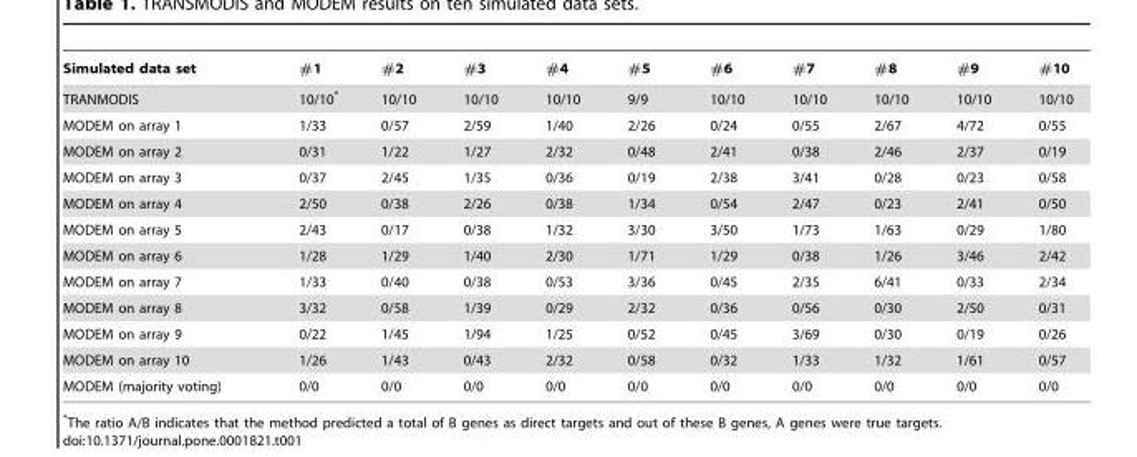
<table><thead><tr><td>Simulated data set</td><td>#1</td><td>#2</td><td>#3</td><td>#4</td><td>#5</td><td>#6</td><td>#7</td><td>#8</td><td>#9</td><td>#10</td></tr></thead><tbody><tr><td>TRANMODIS</td><td>10/10*</td><td>10/10</td><td>10/10</td><td>10/10</td><td>9/9</td><td>10/10</td><td>10/10</td><td>10/10</td><td>10/10</td><td>10/10</td></tr><tr><td>MODEM on array 1</td><td>1/33</td><td>0/57</td><td>2/59</td><td>1/40</td><td>2/26</td><td>0/24</td><td>0/55</td><td>2/67</td><td>4/72</td><td>0/55</td></tr><tr><td>MODEM on array 2</td><td>0/31</td><td>1/22</td><td>1/27</td><td>2/32</td><td>0/48</td><td>2/41</td><td>0/38</td><td>2/46</td><td>2/37</td><td>0/19</td></tr><tr><td>MODEM on array 3</td><td>0/37</td><td>2/45</td><td>1/35</td><td>0/36</td><td>0/19</td><td>2/38</td><td>3/41</td><td>0/28</td><td>0/23</td><td>0/58</td></tr><tr><td>MODEM on array 4</td><td>2/50</td><td>0/38</td><td>2/26</td><td>0/38</td><td>1/34</td><td>0/54</td><td>2/47</td><td>0/23</td><td>2/41</td><td>0/50</td></tr><tr><td>MODEM on array 5</td><td>2/43</td><td>0/17</td><td>0/38</td><td>1/32</td><td>3/30</td><td>3/50</td><td>1/73</td><td>1/63</td><td>0/29</td><td>1/80</td></tr><tr><td>MODEM on array 6</td><td>1/28</td><td>1/29</td><td>1/40</td><td>2/30</td><td>1/71</td><td>1/29</td><td>0/38</td><td>1/26</td><td>3/46</td><td>2/42</td></tr><tr><td>MODEM on array 7</td><td>1/33</td><td>0/40</td><td>0/38</td><td>0/53</td><td>3/36</td><td>0/45</td><td>2/35</td><td>6/41</td><td>0/33</td><td>2/34</td></tr><tr><td>MODEM on array 8</td><td>3/32</td><td>0/58</td><td>1/39</td><td>0/29</td><td>2/32</td><td>0/36</td><td>0/56</td><td>0/30</td><td>2/50</td><td>0/31</td></tr><tr><td>MODEM on array 9</td><td>0/22</td><td>1/45</td><td>1/94</td><td>1/25</td><td>0/52</td><td>0/45</td><td>3/69</td><td>0/30</td><td>0/19</td><td>0/26</td></tr><tr><td>MODEM on array 10</td><td>1/26</td><td>1/43</td><td>0/43</td><td>2/32</td><td>0/58</td><td>0/32</td><td>1/33</td><td>1/32</td><td>1/61</td><td>0/57</td></tr><tr><td>MODEM (majority voting)</td><td>0/0</td><td>0/0</td><td>0/0</td><td>0/0</td><td>0/0</td><td>0/0</td><td>0/0</td><td>0/0</td><td>0/0</td><td>0/0</td></tr></tbody></table>